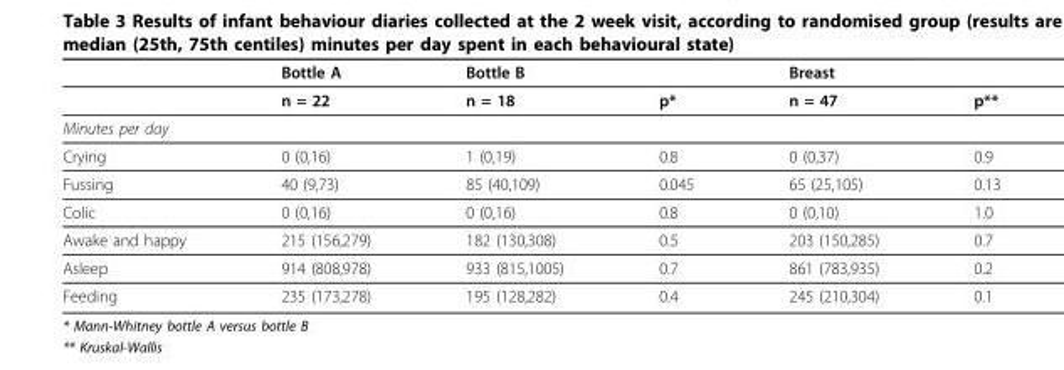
<table><thead><tr><td></td><td>Bottle A</td><td>Bottle B</td><td></td><td>Breast</td><td></td></tr></thead><tbody><tr><td></td><td>n = 22</td><td>n = 18</td><td>p*</td><td>n = 47</td><td>p**</td></tr><tr><td colspan="6">Minutes per day</td></tr><tr><td>Crying</td><td>0 (0,16)</td><td>1 (0,19)</td><td>0.8</td><td>0 (0,37)</td><td>0.9</td></tr><tr><td>Fussing</td><td>40 (9,73)</td><td>85 (40,109)</td><td>0.045</td><td>65 (25,105)</td><td>0.13</td></tr><tr><td>Colic</td><td>0 (0,16)</td><td>0 (0,16)</td><td>0.8</td><td>0 (0,10)</td><td>1.0</td></tr><tr><td>Awake and happy</td><td>215 (156,279)</td><td>182 (130,308)</td><td>0.5</td><td>203 (150,285)</td><td>0.7</td></tr><tr><td>Asleep</td><td>914 (808,978)</td><td>933 (815,1005)</td><td>0.7</td><td>861 (783,935)</td><td>0.2</td></tr><tr><td>Feeding</td><td>235 (173,278)</td><td>195 (128,282)</td><td>0.4</td><td>245 (210,304)</td><td>0.1</td></tr></tbody></table>